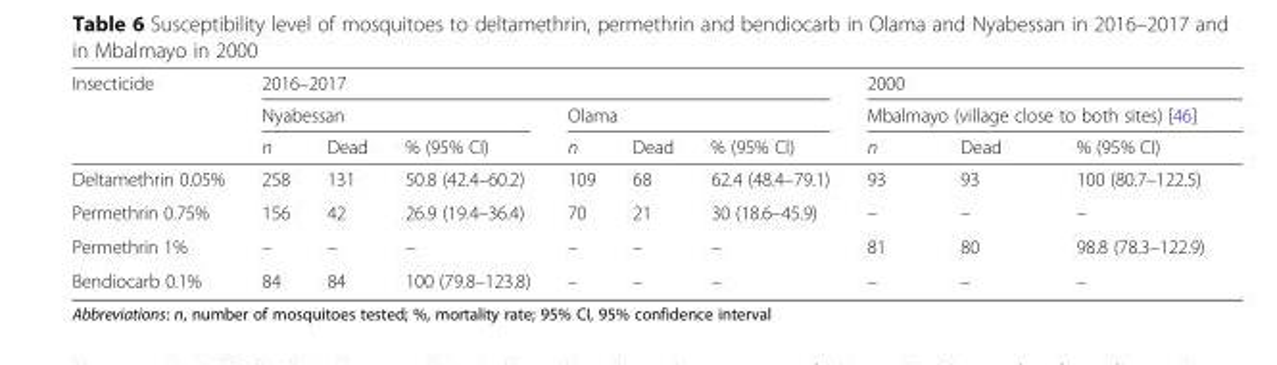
<table><thead><tr><td rowspan="3">Insecticide</td><td colspan="6">2016–2017</td><td rowspan="2" colspan="3">2000 Mbalmayo (village close to both sites) [46]</td></tr><tr><td colspan="3">Nyabessan</td><td colspan="3">Olama</td></tr><tr><td>n</td><td>Dead</td><td>% (95% CI)</td><td>n</td><td>Dead</td><td>% (95% CI)</td><td>n</td><td>Dead</td><td>% (95% CI)</td></tr></thead><tbody><tr><td>Deltamethrin 0.05%</td><td>258</td><td>131</td><td>50.8 (42.4–60.2)</td><td>109</td><td>68</td><td>62.4 (48.4–79.1)</td><td>93</td><td>93</td><td>100 (80.7–122.5)</td></tr><tr><td>Permethrin 0.75%</td><td>156</td><td>42</td><td>26.9 (19.4–36.4)</td><td>70</td><td>21</td><td>30 (18.6–45.9)</td><td>–</td><td>–</td><td>–</td></tr><tr><td>Permethrin 1%</td><td>–</td><td>–</td><td>–</td><td>–</td><td>–</td><td>–</td><td>81</td><td>80</td><td>98.8 (78.3–122.9)</td></tr><tr><td>Bendiocarb 0.1%</td><td>84</td><td>84</td><td>100 (79.8–123.8)</td><td>–</td><td>–</td><td>–</td><td>–</td><td>–</td><td>–</td></tr></tbody></table>